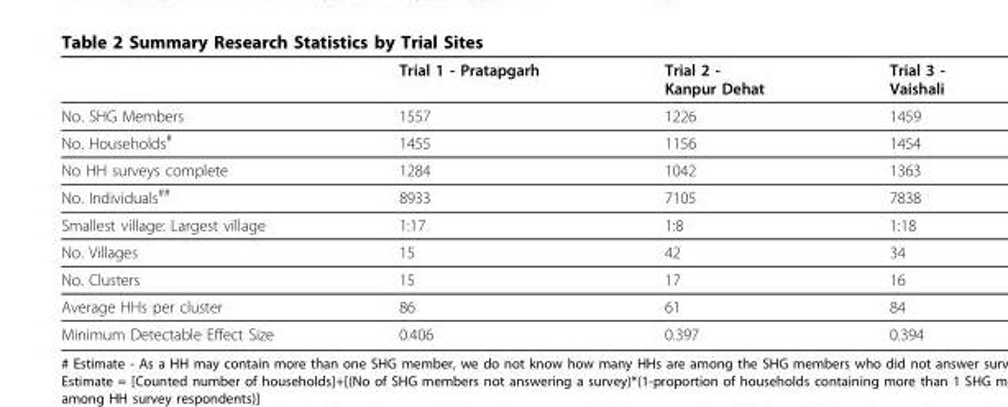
<table><thead><tr><td></td><td>Trial 1 - Pratapgarh</td><td>Trial 2 - Kanpur Dehat</td><td>Trial 3 - Vaishali</td></tr></thead><tbody><tr><td>No. SHG Members</td><td>1557</td><td>1226</td><td>1459</td></tr><tr><td>No. Households<sup>#</sup></td><td>1455</td><td>1156</td><td>1454</td></tr><tr><td>No HH surveys complete</td><td>1284</td><td>1042</td><td>1363</td></tr><tr><td>No. Individuals<sup>##</sup></td><td>8933</td><td>7105</td><td>7838</td></tr><tr><td>Smallest village: Largest village</td><td>1:17</td><td>1:8</td><td>1:18</td></tr><tr><td>No. Villages</td><td>15</td><td>42</td><td>34</td></tr><tr><td>No. Clusters</td><td>15</td><td>17</td><td>16</td></tr><tr><td>Average HHs per cluster</td><td>86</td><td>61</td><td>84</td></tr><tr><td>Minimum Detectable Effect Size</td><td>0.406</td><td>0.397</td><td>0.394</td></tr></tbody></table>